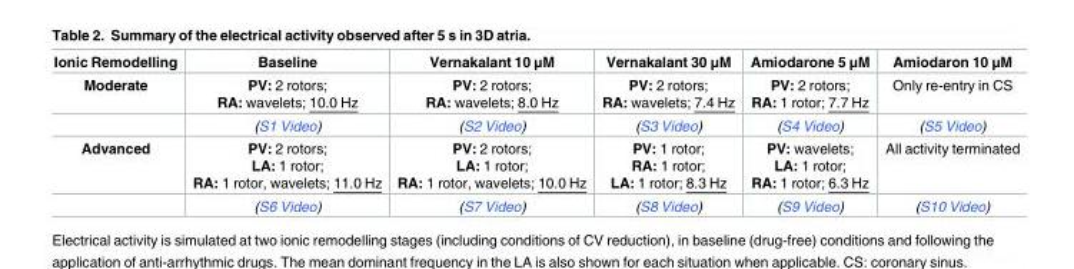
<table><thead><tr><td>Ionic Remodelling</td><td>Baseline</td><td>Vernakalant 10 μM</td><td>Vernakalant 30 μM</td><td>Amiodarone 5 μM</td><td>Amiodaron 10 μM</td></tr></thead><tbody><tr><td rowspan="2">Moderate</td><td>PV: 2 rotors; RA: wavelets; 10.0 Hz</td><td>PV: 2 rotors; RA: wavelets; 8.0 Hz</td><td>PV: 2 rotors; RA: wavelets; 7.4 Hz</td><td>PV: 2 rotors; RA: 1 rotor; 7.7 Hz</td><td>Only re-entry in CS</td></tr><tr><td>(S1 Video)</td><td>(S2 Video)</td><td>(S3 Video)</td><td>(S4 Video)</td><td>(S5 Video)</td></tr><tr><td rowspan="2">Advanced</td><td>PV: 2 rotors; LA: 1 rotor; RA: 1 rotor, wavelets; 11.0 Hz</td><td>PV: 2 rotors; LA: 1 rotor; RA: 1 rotor, wavelets; 10.0 Hz</td><td>PV: 1 rotor; RA: 1 rotor; LA: 1 rotor; 8.3 Hz</td><td>PV: wavelets; LA: 1 rotor; RA: 1 rotor; 6.3 Hz</td><td>All activity terminated</td></tr><tr><td>(S6 Video)</td><td>(S7 Video)</td><td>(S8 Video)</td><td>(S9 Video)</td><td>(S10 Video)</td></tr></tbody></table>